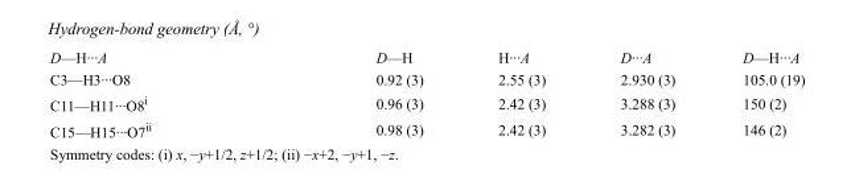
<table><tbody><tr><td>D—H···A</td><td>D—H</td><td>H···A</td><td>D···A</td><td>D—H···A</td></tr><tr><td>C3—H3···O8</td><td>0.92 (3)</td><td>2.55 (3)</td><td>2.930 (3)</td><td>105.0 (19)</td></tr><tr><td>C11—H11···O8<sup>i</sup></td><td>0.96 (3)</td><td>2.42 (3)</td><td>3.288 (3)</td><td>150 (2)</td></tr><tr><td>C15—H15···O7<sup>ii</sup></td><td>0.98 (3)</td><td>2.42 (3)</td><td>3.282 (3)</td><td>146 (2)</td></tr></tbody></table>